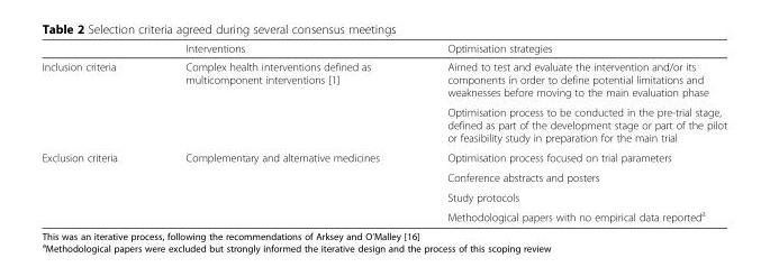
<table><thead><tr><td></td><td>Interventions</td><td>Optimisation strategies</td></tr></thead><tbody><tr><td rowspan="2">Inclusion criteria</td><td rowspan="2">Complex health interventions defined as multicomponent interventions [1]</td><td>Aimed to test and evaluate the intervention and/or its components in order to define potential limitations and weaknesses before moving to the main evaluation phase</td></tr><tr><td>Optimisation process to be conducted in the pre-trial stage, defined as part of the development stage or part of the pilot or feasibility study in preparation for the main trial</td></tr><tr><td rowspan="4">Exclusion criteria</td><td rowspan="4">Complementary and alternative medicines</td><td>Optimisation process focused on trial parameters</td></tr><tr><td>Conference abstracts and posters</td></tr><tr><td>Study protocols</td></tr><tr><td>Methodological papers with no empirical data reported<sup>a</sup></td></tr></tbody></table>